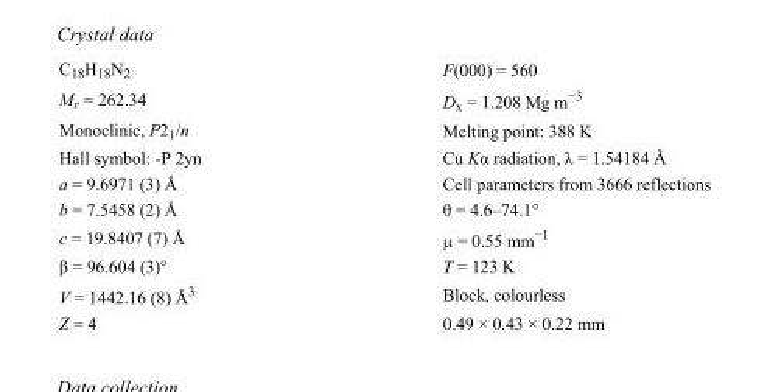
<table><tbody><tr><td>C<sub>18</sub>H<sub>18</sub>N<sub>2</sub></td><td>F(000) = 560</td></tr><tr><td>M<sub>r</sub> = 262.34</td><td>D<sub>x</sub> = 1.208 Mg m<sup>−3</sup></td></tr><tr><td>Monoclinic, P2<sub>1</sub>/n</td><td>Melting point: 388 K</td></tr><tr><td>Hall symbol: -P 2yn</td><td>Cu Kα radiation, λ = 1.54184 Å</td></tr><tr><td>a = 9.6971 (3) Å</td><td>Cell parameters from 3666 reflections</td></tr><tr><td>b = 7.5458 (2) Å</td><td>θ = 4.6–74.1°</td></tr><tr><td>c = 19.8407 (7) Å</td><td>µ = 0.55 mm<sup>−1</sup></td></tr><tr><td>β = 96.604 (3)°</td><td>T = 123 K</td></tr><tr><td>V = 1442.16 (8) Å<sup>3</sup></td><td>Block, colourless</td></tr><tr><td>Z = 4</td><td>0.49 × 0.43 × 0.22 mm</td></tr></tbody></table>